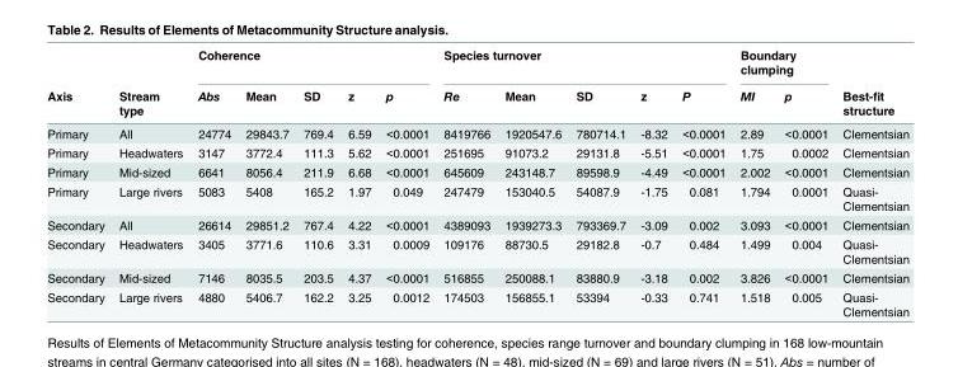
<table><thead><tr><td rowspan="2">Axis</td><td rowspan="2">Stream type</td><td colspan="5">Coherence</td><td colspan="5">Species turnover</td><td colspan="2">Boundary clumping</td><td rowspan="2">Best-fit structure</td></tr><tr><td>Abs</td><td>Mean</td><td>SD</td><td>z</td><td>p</td><td>Re</td><td>Mean</td><td>SD</td><td>z</td><td>P</td><td>MI</td><td>p</td></tr></thead><tbody><tr><td>Primary</td><td>All</td><td>24774</td><td>29843.7</td><td>769.4</td><td>6.59</td><td>&lt;0.0001</td><td>8419766</td><td>1920547.6</td><td>780714.1</td><td>-8.32</td><td>&lt;0.0001</td><td>2.89</td><td>&lt;0.0001</td><td>Clementsian</td></tr><tr><td>Primary</td><td>Headwaters</td><td>3147</td><td>3772.4</td><td>111.3</td><td>5.62</td><td>&lt;0.0001</td><td>251695</td><td>91073.2</td><td>29131.8</td><td>-5.51</td><td>&lt;0.0001</td><td>1.75</td><td>0.0002</td><td>Clementsian</td></tr><tr><td>Primary</td><td>Mid-sized</td><td>6641</td><td>8056.4</td><td>211.9</td><td>6.68</td><td>&lt;0.0001</td><td>645609</td><td>243148.7</td><td>89598.9</td><td>-4.49</td><td>&lt;0.0001</td><td>2.002</td><td>&lt;0.0001</td><td>Clementsian</td></tr><tr><td>Primary</td><td>Large rivers</td><td>5083</td><td>5408</td><td>165.2</td><td>1.97</td><td>0.049</td><td>247479</td><td>153040.5</td><td>54087.9</td><td>-1.75</td><td>0.081</td><td>1.794</td><td>0.0001</td><td>Quasi- Clementsian</td></tr><tr><td>Secondary</td><td>All</td><td>26614</td><td>29851.2</td><td>767.4</td><td>4.22</td><td>&lt;0.0001</td><td>4389093</td><td>1939273.3</td><td>793369.7</td><td>-3.09</td><td>0.002</td><td>3.093</td><td>&lt;0.0001</td><td>Clementsian</td></tr><tr><td>Secondary</td><td>Headwaters</td><td>3405</td><td>3771.6</td><td>110.6</td><td>3.31</td><td>0.0009</td><td>109176</td><td>88730.5</td><td>29182.8</td><td>-0.7</td><td>0.484</td><td>1.499</td><td>0.004</td><td>Quasi- Clementsian</td></tr><tr><td>Secondary</td><td>Mid-sized</td><td>7146</td><td>8035.5</td><td>203.5</td><td>4.37</td><td>&lt;0.0001</td><td>516855</td><td>250088.1</td><td>83880.9</td><td>-3.18</td><td>0.002</td><td>3.826</td><td>&lt;0.0001</td><td>Clementsian</td></tr><tr><td>Secondary</td><td>Large rivers</td><td>4880</td><td>5406.7</td><td>162.2</td><td>3.25</td><td>0.0012</td><td>174503</td><td>156855.1</td><td>53394</td><td>-0.33</td><td>0.741</td><td>1.518</td><td>0.005</td><td>Quasi- Clementsian</td></tr></tbody></table>